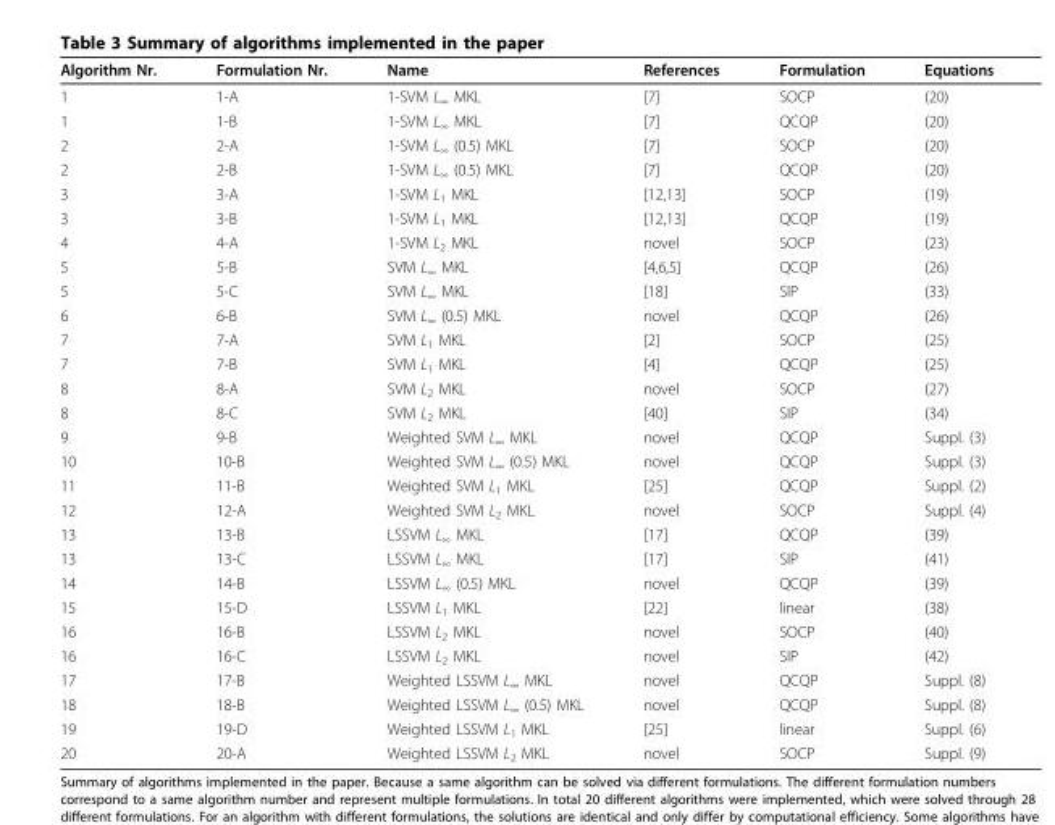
<table><thead><tr><td>Algorithm Nr.</td><td>Formulation Nr.</td><td>Name</td><td>References</td><td>Formulation</td><td>Equations</td></tr></thead><tbody><tr><td>1</td><td>1-A</td><td>1-SVM L<sub>∞</sub> MKL</td><td>[7]</td><td>SOCP</td><td>(20)</td></tr><tr><td>1</td><td>1-B</td><td>1-SVM L<sub>∞</sub> MKL</td><td>[7]</td><td>QCQP</td><td>(20)</td></tr><tr><td>2</td><td>2-A</td><td>1-SVM L<sub>∞</sub> (0.5) MKL</td><td>[7]</td><td>SOCP</td><td>(20)</td></tr><tr><td>2</td><td>2-B</td><td>1-SVM L<sub>∞</sub> (0.5) MKL</td><td>[7]</td><td>QCQP</td><td>(20)</td></tr><tr><td>3</td><td>3-A</td><td>1-SVM L<sub>1</sub> MKL</td><td>[12,13]</td><td>SOCP</td><td>(19)</td></tr><tr><td>3</td><td>3-B</td><td>1-SVM L<sub>1</sub> MKL</td><td>[12,13]</td><td>QCQP</td><td>(19)</td></tr><tr><td>4</td><td>4-A</td><td>1-SVM L<sub>2</sub> MKL</td><td>novel</td><td>SOCP</td><td>(23)</td></tr><tr><td>5</td><td>5-B</td><td>SVM L<sub>∞</sub> MKL</td><td>[4,6,5]</td><td>QCQP</td><td>(26)</td></tr><tr><td>5</td><td>5-C</td><td>SVM L<sub>∞</sub> MKL</td><td>[18]</td><td>SIP</td><td>(33)</td></tr><tr><td>6</td><td>6-B</td><td>SVM L<sub>∞</sub> (0.5) MKL</td><td>novel</td><td>QCQP</td><td>(26)</td></tr><tr><td>7</td><td>7-A</td><td>SVM L<sub>1</sub> MKL</td><td>[2]</td><td>SOCP</td><td>(25)</td></tr><tr><td>7</td><td>7-B</td><td>SVM L<sub>1</sub> MKL</td><td>[4]</td><td>QCQP</td><td>(25)</td></tr><tr><td>8</td><td>8-A</td><td>SVM L<sub>2</sub> MKL</td><td>novel</td><td>SOCP</td><td>(27)</td></tr><tr><td>8</td><td>8-C</td><td>SVM L<sub>2</sub> MKL</td><td>[40]</td><td>SIP</td><td>(34)</td></tr><tr><td>9</td><td>9-B</td><td>Weighted SVM L<sub>∞</sub> MKL</td><td>novel</td><td>QCQP</td><td>Suppl. (3)</td></tr><tr><td>10</td><td>10-B</td><td>Weighted SVM L<sub>∞</sub> (0.5) MKL</td><td>novel</td><td>QCQP</td><td>Suppl. (3)</td></tr><tr><td>11</td><td>11-B</td><td>Weighted SVM L<sub>1</sub> MKL</td><td>[25]</td><td>QCQP</td><td>Suppl. (2)</td></tr><tr><td>12</td><td>12-A</td><td>Weighted SVM L<sub>2</sub> MKL</td><td>novel</td><td>SOCP</td><td>Suppl. (4)</td></tr><tr><td>13</td><td>13-B</td><td>LSSVM L<sub>∞</sub> MKL</td><td>[17]</td><td>QCQP</td><td>(39)</td></tr><tr><td>13</td><td>13-C</td><td>LSSVM L<sub>∞</sub> MKL</td><td>[17]</td><td>SIP</td><td>(41)</td></tr><tr><td>14</td><td>14-B</td><td>LSSVM L<sub>∞</sub> (0.5) MKL</td><td>novel</td><td>QCQP</td><td>(39)</td></tr><tr><td>15</td><td>15-D</td><td>LSSVM L<sub>1</sub> MKL</td><td>[22]</td><td>linear</td><td>(38)</td></tr><tr><td>16</td><td>16-B</td><td>LSSVM L<sub>2</sub> MKL</td><td>novel</td><td>SOCP</td><td>(40)</td></tr><tr><td>16</td><td>16-C</td><td>LSSVM L<sub>2</sub> MKL</td><td>novel</td><td>SIP</td><td>(42)</td></tr><tr><td>17</td><td>17-B</td><td>Weighted LSSVM L<sub>∞</sub> MKL</td><td>novel</td><td>QCQP</td><td>Suppl. (8)</td></tr><tr><td>18</td><td>18-B</td><td>Weighted LSSVM L<sub>∞</sub> (0.5) MKL</td><td>novel</td><td>QCQP</td><td>Suppl. (8)</td></tr><tr><td>19</td><td>19-D</td><td>Weighted LSSVM L<sub>1</sub> MKL</td><td>[25]</td><td>linear</td><td>Suppl. (6)</td></tr><tr><td>20</td><td>20-A</td><td>Weighted LSSVM L<sub>2</sub> MKL</td><td>novel</td><td>SOCP</td><td>Suppl. (9)</td></tr></tbody></table>